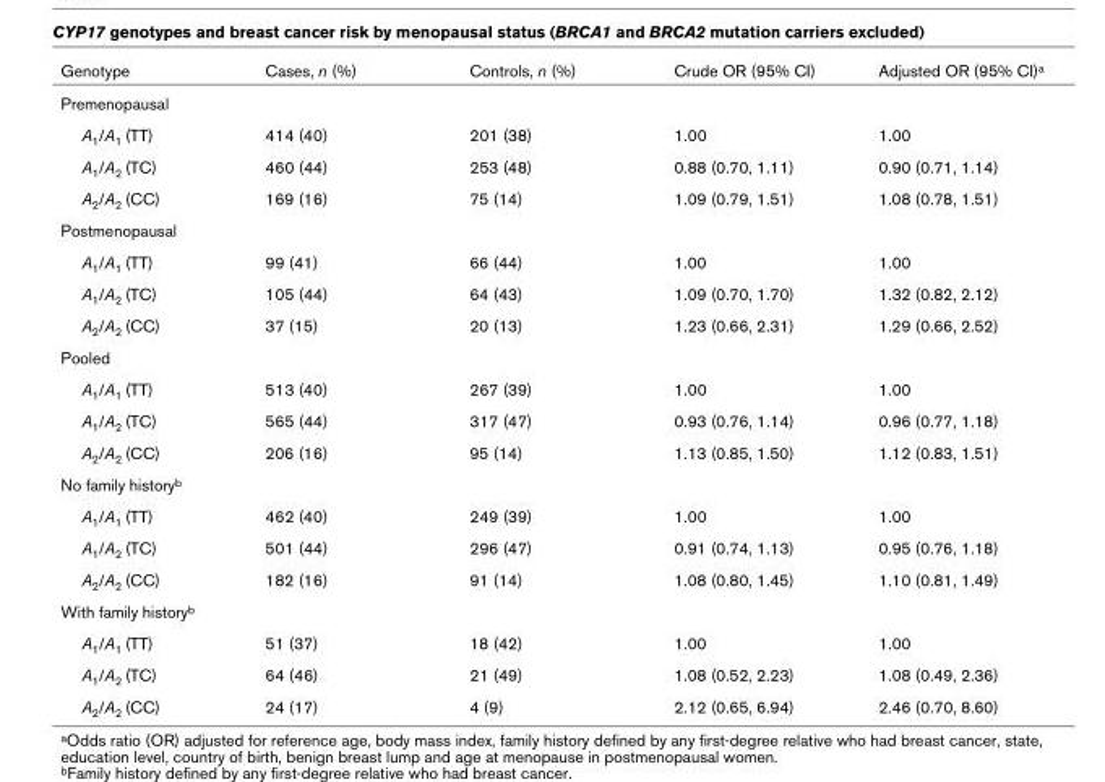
<table><thead><tr><td>Genotype</td><td>Cases, n (%)</td><td>Controls, n (%)</td><td>Crude OR (95% CI)</td><td>Adjusted OR (95% CI)a</td></tr></thead><tbody><tr><td colspan="5">Premenopausal</td></tr><tr><td>A1/A1 (TT)</td><td>414 (40)</td><td>201 (38)</td><td>1.00</td><td>1.00</td></tr><tr><td>A1/A2 (TC)</td><td>460 (44)</td><td>253 (48)</td><td>0.88 (0.70, 1.11)</td><td>0.90 (0.71, 1.14)</td></tr><tr><td>A2/A2 (CC)</td><td>169 (16)</td><td>75 (14)</td><td>1.09 (0.79, 1.51)</td><td>1.08 (0.78, 1.51)</td></tr><tr><td colspan="5">Postmenopausal</td></tr><tr><td>A1/A1 (TT)</td><td>99 (41)</td><td>66 (44)</td><td>1.00</td><td>1.00</td></tr><tr><td>A1/A2 (TC)</td><td>105 (44)</td><td>64 (43)</td><td>1.09 (0.70, 1.70)</td><td>1.32 (0.82, 2.12)</td></tr><tr><td>A2/A2 (CC)</td><td>37 (15)</td><td>20 (13)</td><td>1.23 (0.66, 2.31)</td><td>1.29 (0.66, 2.52)</td></tr><tr><td colspan="5">Pooled</td></tr><tr><td>A1/A1 (TT)</td><td>513 (40)</td><td>267 (39)</td><td>1.00</td><td>1.00</td></tr><tr><td>A1/A2 (TC)</td><td>565 (44)</td><td>317 (47)</td><td>0.93 (0.76, 1.14)</td><td>0.96 (0.77, 1.18)</td></tr><tr><td>A2/A2 (CC)</td><td>206 (16)</td><td>95 (14)</td><td>1.13 (0.85, 1.50)</td><td>1.12 (0.83, 1.51)</td></tr><tr><td colspan="5">No family historyb</td></tr><tr><td>A1/A1 (TT)</td><td>462 (40)</td><td>249 (39)</td><td>1.00</td><td>1.00</td></tr><tr><td>A1/A2 (TC)</td><td>501 (44)</td><td>296 (47)</td><td>0.91 (0.74, 1.13)</td><td>0.95 (0.76, 1.18)</td></tr><tr><td>A2/A2 (CC)</td><td>182 (16)</td><td>91 (14)</td><td>1.08 (0.80, 1.45)</td><td>1.10 (0.81, 1.49)</td></tr><tr><td colspan="5">With family historyb</td></tr><tr><td>A1/A1 (TT)</td><td>51 (37)</td><td>18 (42)</td><td>1.00</td><td>1.00</td></tr><tr><td>A1/A2 (TC)</td><td>64 (46)</td><td>21 (49)</td><td>1.08 (0.52, 2.23)</td><td>1.08 (0.49, 2.36)</td></tr><tr><td>A2/A2 (CC)</td><td>24 (17)</td><td>4 (9)</td><td>2.12 (0.65, 6.94)</td><td>2.46 (0.70, 8.60)</td></tr></tbody></table>